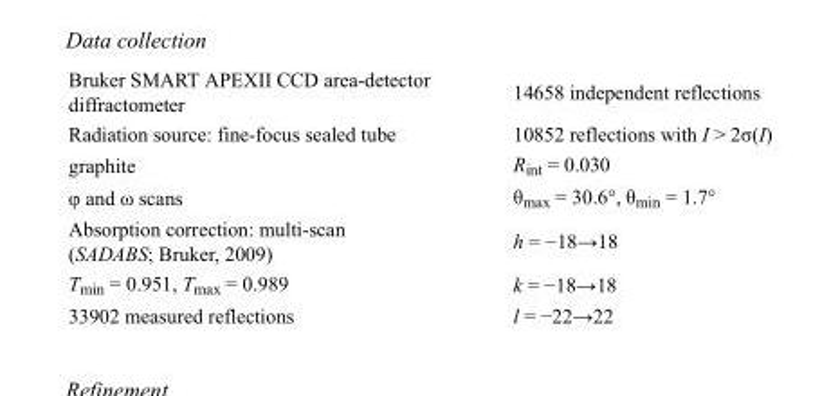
<table><tbody><tr><td>Bruker SMART APEXII CCD area-detector diffractometer</td><td>14658 independent reflections</td></tr><tr><td>Radiation source: fine-focus sealed tube</td><td>10852 reflections with I &gt; 2σ(I)</td></tr><tr><td>graphite</td><td>R<sub>int</sub> = 0.030</td></tr><tr><td>φ and ω scans</td><td>θ<sub>max</sub> = 30.6°, θ<sub>min</sub> = 1.7°</td></tr><tr><td>Absorption correction: multi-scan (SADABS; Bruker, 2009)</td><td>h = −18→18</td></tr><tr><td>T<sub>min</sub> = 0.951, T<sub>max</sub> = 0.989</td><td>k = −18→18</td></tr><tr><td>33902 measured reflections</td><td>l = −22→22</td></tr></tbody></table>